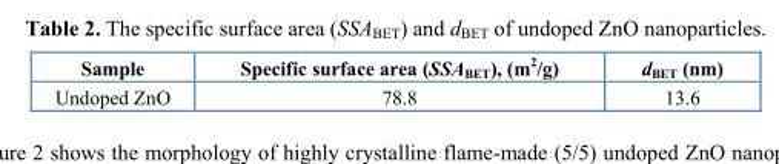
<table><thead><tr><td>Sample</td><td>Specific surface area (SSA<sub>BET</sub>), (m<sup>2</sup>/g)</td><td>d<sub>BET</sub> (nm)</td></tr></thead><tbody><tr><td>Undoped ZnO</td><td>78.8</td><td>13.6</td></tr></tbody></table>